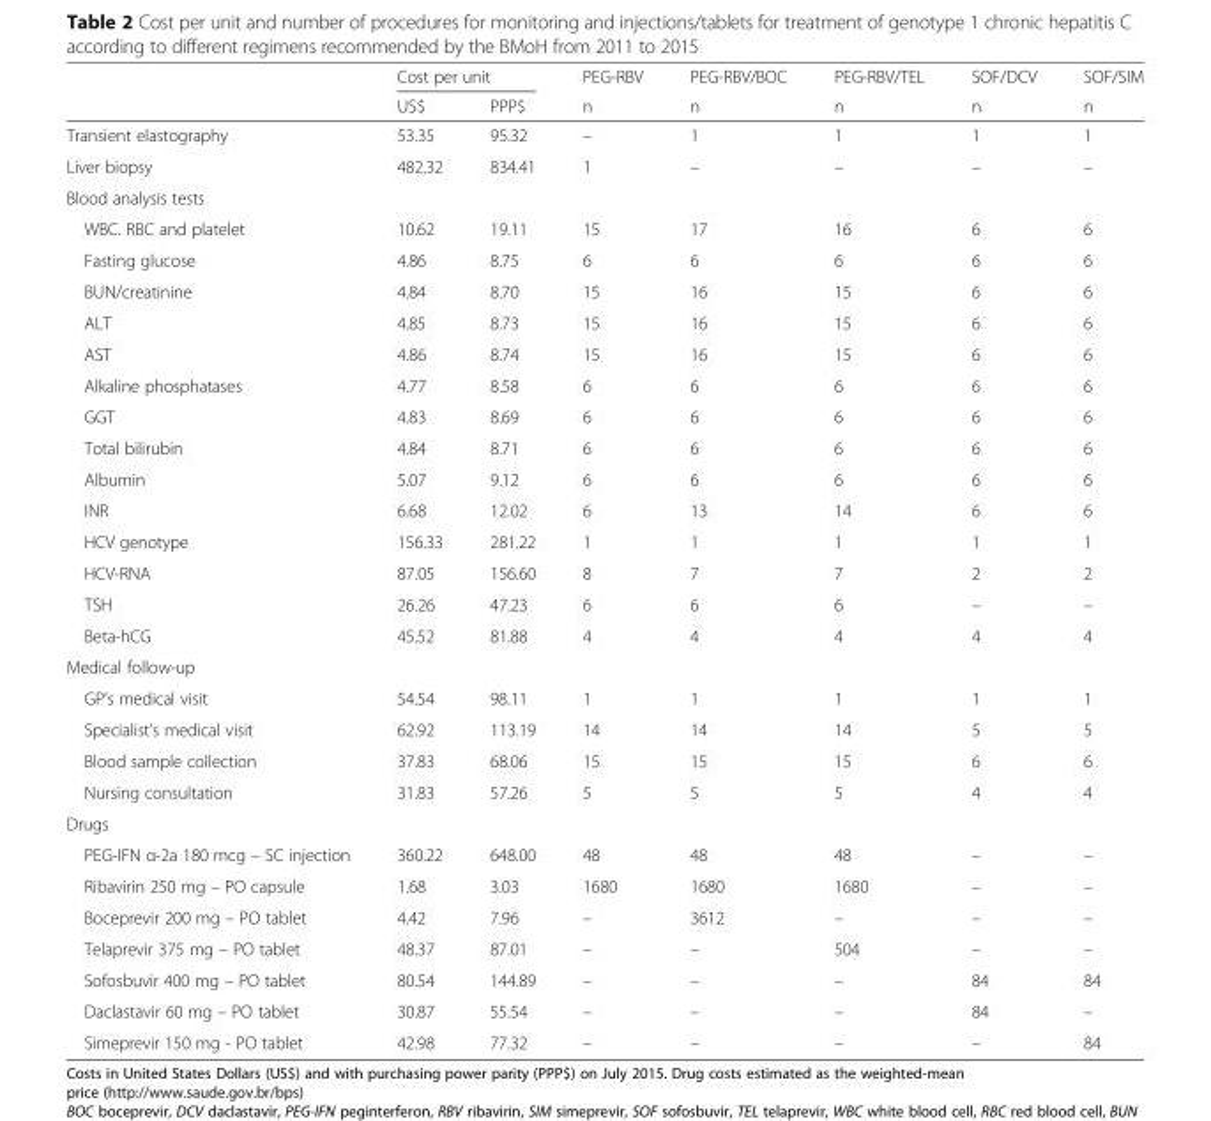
<table><thead><tr><td rowspan="2"></td><td colspan="2">Cost per unit</td><td rowspan="2">PEG-RBV n</td><td rowspan="2">PEG-RBV/BOC n</td><td rowspan="2">PEG-RBV/TEL n</td><td rowspan="2">SOF/DCV n</td><td rowspan="2">SOF/SIM n</td></tr><tr><td>US$</td><td>PPP$</td></tr></thead><tbody><tr><td>Transient elastography</td><td>53.35</td><td>95.32</td><td>–</td><td>1</td><td>1</td><td>1</td><td>1</td></tr><tr><td>Liver biopsy</td><td>482.32</td><td>834.41</td><td>1</td><td>–</td><td>–</td><td>–</td><td>–</td></tr><tr><td colspan="8">Blood analysis tests</td></tr><tr><td>WBC. RBC and platelet</td><td>10.62</td><td>19.11</td><td>15</td><td>17</td><td>16</td><td>6</td><td>6</td></tr><tr><td>Fasting glucose</td><td>4.86</td><td>8.75</td><td>6</td><td>6</td><td>6</td><td>6</td><td>6</td></tr><tr><td>BUN/creatinine</td><td>4.84</td><td>8.70</td><td>15</td><td>16</td><td>15</td><td>6</td><td>6</td></tr><tr><td>ALT</td><td>4.85</td><td>8.73</td><td>15</td><td>16</td><td>15</td><td>6</td><td>6</td></tr><tr><td>AST</td><td>4.86</td><td>8.74</td><td>15</td><td>16</td><td>15</td><td>6</td><td>6</td></tr><tr><td>Alkaline phosphatases</td><td>4.77</td><td>8.58</td><td>6</td><td>6</td><td>6</td><td>6</td><td>6</td></tr><tr><td>GGT</td><td>4.83</td><td>8.69</td><td>6</td><td>6</td><td>6</td><td>6</td><td>6</td></tr><tr><td>Total bilirubin</td><td>4.84</td><td>8.71</td><td>6</td><td>6</td><td>6</td><td>6</td><td>6</td></tr><tr><td>Albumin</td><td>5.07</td><td>9.12</td><td>6</td><td>6</td><td>6</td><td>6</td><td>6</td></tr><tr><td>INR</td><td>6.68</td><td>12.02</td><td>6</td><td>13</td><td>14</td><td>6</td><td>6</td></tr><tr><td>HCV genotype</td><td>156.33</td><td>281.22</td><td>1</td><td>1</td><td>1</td><td>1</td><td>1</td></tr><tr><td>HCV-RNA</td><td>87.05</td><td>156.60</td><td>8</td><td>7</td><td>7</td><td>2</td><td>2</td></tr><tr><td>TSH</td><td>26.26</td><td>47.23</td><td>6</td><td>6</td><td>6</td><td>–</td><td>–</td></tr><tr><td>Beta-hCG</td><td>45.52</td><td>81.88</td><td>4</td><td>4</td><td>4</td><td>4</td><td>4</td></tr><tr><td colspan="8">Medical follow-up</td></tr><tr><td>GP’s medical visit</td><td>54.54</td><td>98.11</td><td>1</td><td>1</td><td>1</td><td>1</td><td>1</td></tr><tr><td>Specialist’s medical visit</td><td>62.92</td><td>113.19</td><td>14</td><td>14</td><td>14</td><td>5</td><td>5</td></tr><tr><td>Blood sample collection</td><td>37.83</td><td>68.06</td><td>15</td><td>15</td><td>15</td><td>6</td><td>6</td></tr><tr><td>Nursing consultation</td><td>31.83</td><td>57.26</td><td>5</td><td>5</td><td>5</td><td>4</td><td>4</td></tr><tr><td colspan="8">Drugs</td></tr><tr><td>PEG-IFN α-2a 180 mcg – SC injection</td><td>360.22</td><td>648.00</td><td>48</td><td>48</td><td>48</td><td>–</td><td>–</td></tr><tr><td>Ribavirin 250 mg – PO capsule</td><td>1.68</td><td>3.03</td><td>1680</td><td>1680</td><td>1680</td><td>–</td><td>–</td></tr><tr><td>Boceprevir 200 mg – PO tablet</td><td>4.42</td><td>7.96</td><td>–</td><td>3612</td><td>–</td><td>–</td><td>–</td></tr><tr><td>Telaprevir 375 mg – PO tablet</td><td>48.37</td><td>87.01</td><td>–</td><td>–</td><td>504</td><td>–</td><td>–</td></tr><tr><td>Sofosbuvir 400 mg – PO tablet</td><td>80.54</td><td>144.89</td><td>–</td><td>–</td><td>–</td><td>84</td><td>84</td></tr><tr><td>Daclastavir 60 mg – PO tablet</td><td>30.87</td><td>55.54</td><td>–</td><td>–</td><td>–</td><td>84</td><td>–</td></tr><tr><td>Simeprevir 150 mg - PO tablet</td><td>42.98</td><td>77.32</td><td>–</td><td>–</td><td>–</td><td>–</td><td>84</td></tr></tbody></table>